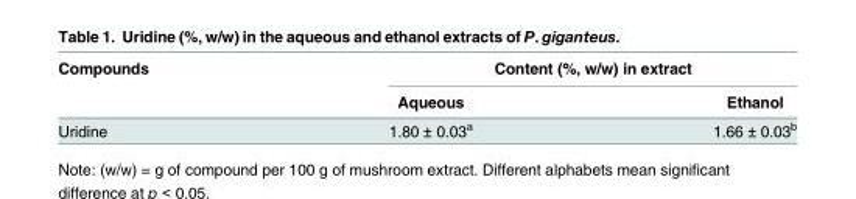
<table><thead><tr><td rowspan="2">Compounds</td><td colspan="2">Content (%, w/w) in extract</td></tr><tr><td>Aqueous</td><td>Ethanol</td></tr></thead><tbody><tr><td>Uridine</td><td>1.80 ± 0.03<sup>a</sup></td><td>1.66 ± 0.03<sup>b</sup></td></tr></tbody></table>